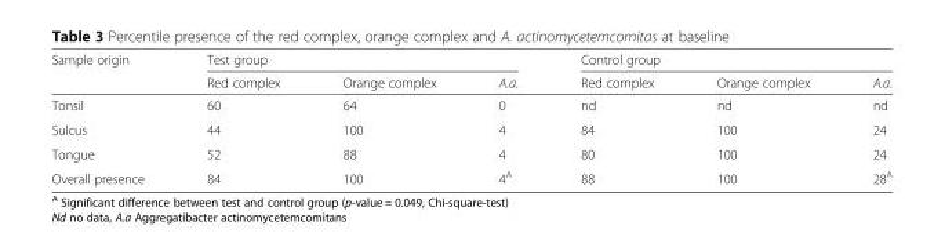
<table><thead><tr><td rowspan="2">Sample origin</td><td colspan="3">Test group</td><td colspan="3">Control group</td></tr><tr><td>Red complex</td><td>Orange complex</td><td>A.a.</td><td>Red complex</td><td>Orange complex</td><td>A.a.</td></tr></thead><tbody><tr><td>Tonsil</td><td>60</td><td>64</td><td>0</td><td>nd</td><td>nd</td><td>nd</td></tr><tr><td>Sulcus</td><td>44</td><td>100</td><td>4</td><td>84</td><td>100</td><td>24</td></tr><tr><td>Tongue</td><td>52</td><td>88</td><td>4</td><td>80</td><td>100</td><td>24</td></tr><tr><td>Overall presence</td><td>84</td><td>100</td><td>4<sup>A</sup></td><td>88</td><td>100</td><td>28<sup>A</sup></td></tr></tbody></table>